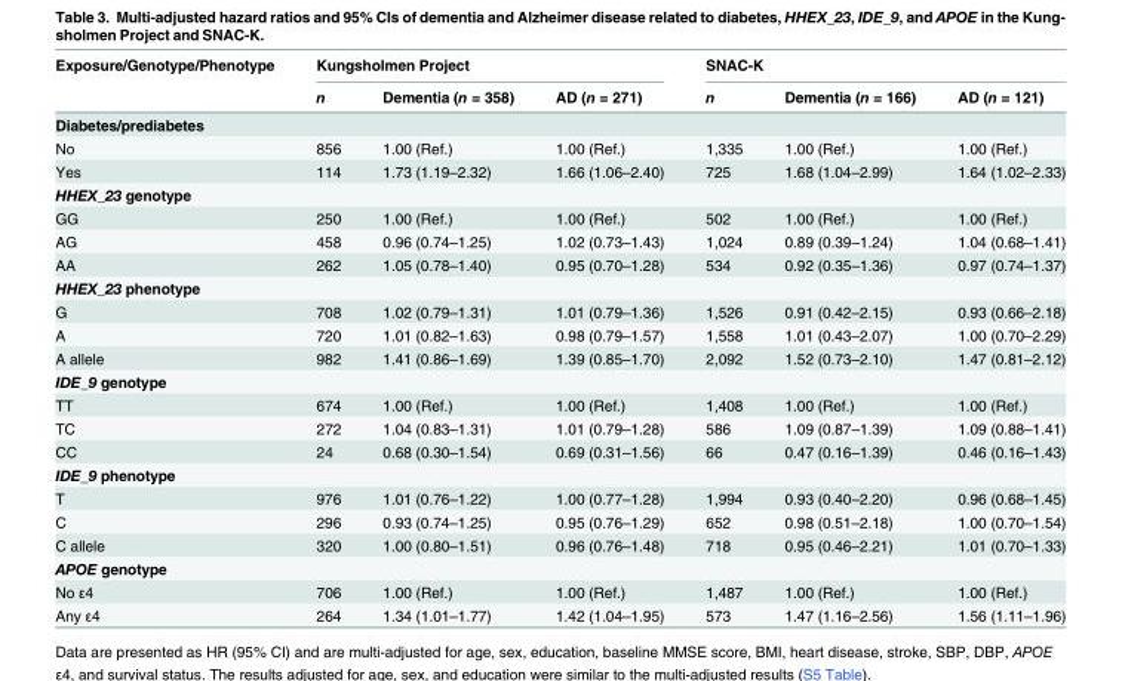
<table><thead><tr><td rowspan="2">Exposure/Genotype/Phenotype</td><td colspan="3">Kungsholmen Project</td><td colspan="3">SNAC-K</td></tr><tr><td>n</td><td>Dementia (n = 358)</td><td>AD (n = 271)</td><td>n</td><td>Dementia (n = 166)</td><td>AD (n = 121)</td></tr></thead><tbody><tr><td colspan="7">Diabetes/prediabetes</td></tr><tr><td>No</td><td>856</td><td>1.00 (Ref.)</td><td>1.00 (Ref.)</td><td>1,335</td><td>1.00 (Ref.)</td><td>1.00 (Ref.)</td></tr><tr><td>Yes</td><td>114</td><td>1.73 (1.19–2.32)</td><td>1.66 (1.06–2.40)</td><td>725</td><td>1.68 (1.04–2.99)</td><td>1.64 (1.02–2.33)</td></tr><tr><td colspan="7">HHEX_23 genotype</td></tr><tr><td>GG</td><td>250</td><td>1.00 (Ref.)</td><td>1.00 (Ref.)</td><td>502</td><td>1.00 (Ref.)</td><td>1.00 (Ref.)</td></tr><tr><td>AG</td><td>458</td><td>0.96 (0.74–1.25)</td><td>1.02 (0.73–1.43)</td><td>1,024</td><td>0.89 (0.39–1.24)</td><td>1.04 (0.68–1.41)</td></tr><tr><td>AA</td><td>262</td><td>1.05 (0.78–1.40)</td><td>0.95 (0.70–1.28)</td><td>534</td><td>0.92 (0.35–1.36)</td><td>0.97 (0.74–1.37)</td></tr><tr><td colspan="7">HHEX_23 phenotype</td></tr><tr><td>G</td><td>708</td><td>1.02 (0.79–1.31)</td><td>1.01 (0.79–1.36)</td><td>1,526</td><td>0.91 (0.42–2.15)</td><td>0.93 (0.66–2.18)</td></tr><tr><td>A</td><td>720</td><td>1.01 (0.82–1.63)</td><td>0.98 (0.79–1.57)</td><td>1,558</td><td>1.01 (0.43–2.07)</td><td>1.00 (0.70–2.29)</td></tr><tr><td>A allele</td><td>982</td><td>1.41 (0.86–1.69)</td><td>1.39 (0.85–1.70)</td><td>2,092</td><td>1.52 (0.73–2.10)</td><td>1.47 (0.81–2.12)</td></tr><tr><td colspan="7">IDE_9 genotype</td></tr><tr><td>TT</td><td>674</td><td>1.00 (Ref.)</td><td>1.00 (Ref.)</td><td>1,408</td><td>1.00 (Ref.)</td><td>1.00 (Ref.)</td></tr><tr><td>TC</td><td>272</td><td>1.04 (0.83–1.31)</td><td>1.01 (0.79–1.28)</td><td>586</td><td>1.09 (0.87–1.39)</td><td>1.09 (0.88–1.41)</td></tr><tr><td>CC</td><td>24</td><td>0.68 (0.30–1.54)</td><td>0.69 (0.31–1.56)</td><td>66</td><td>0.47 (0.16–1.39)</td><td>0.46 (0.16–1.43)</td></tr><tr><td colspan="7">IDE_9 phenotype</td></tr><tr><td>T</td><td>976</td><td>1.01 (0.76–1.22)</td><td>1.00 (0.77–1.28)</td><td>1,994</td><td>0.93 (0.40–2.20)</td><td>0.96 (0.68–1.45)</td></tr><tr><td>C</td><td>296</td><td>0.93 (0.74–1.25)</td><td>0.95 (0.76–1.29)</td><td>652</td><td>0.98 (0.51–2.18)</td><td>1.00 (0.70–1.54)</td></tr><tr><td>C allele</td><td>320</td><td>1.00 (0.80–1.51)</td><td>0.96 (0.76–1.48)</td><td>718</td><td>0.95 (0.46–2.21)</td><td>1.01 (0.70–1.33)</td></tr><tr><td colspan="7">APOE genotype</td></tr><tr><td>No ε4</td><td>706</td><td>1.00 (Ref.)</td><td>1.00 (Ref.)</td><td>1,487</td><td>1.00 (Ref.)</td><td>1.00 (Ref.)</td></tr><tr><td>Any ε4</td><td>264</td><td>1.34 (1.01–1.77)</td><td>1.42 (1.04–1.95)</td><td>573</td><td>1.47 (1.16–2.56)</td><td>1.56 (1.11–1.96)</td></tr></tbody></table>